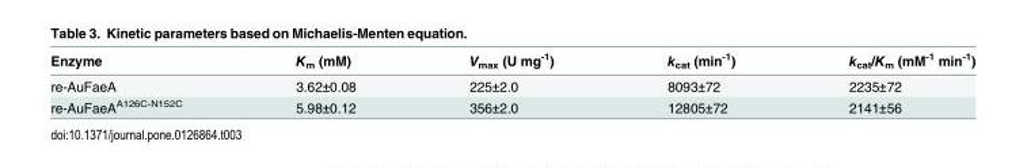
<table><thead><tr><td>Enzyme</td><td>K<sub>m</sub> (mM)</td><td>V<sub>max</sub> (U mg<sup>-1</sup>)</td><td>k<sub>cat</sub> (min<sup>-1</sup>)</td><td>k<sub>cat</sub>/K<sub>m</sub> (mM<sup>-1</sup> min<sup>-1</sup>)</td></tr></thead><tbody><tr><td>re-AuFaeA</td><td>3.62±0.08</td><td>225±2.0</td><td>8093±72</td><td>2235±72</td></tr><tr><td>re-AuFaeA<sup>A126C-N152C</sup></td><td>5.98±0.12</td><td>356±2.0</td><td>12805±72</td><td>2141±56</td></tr></tbody></table>